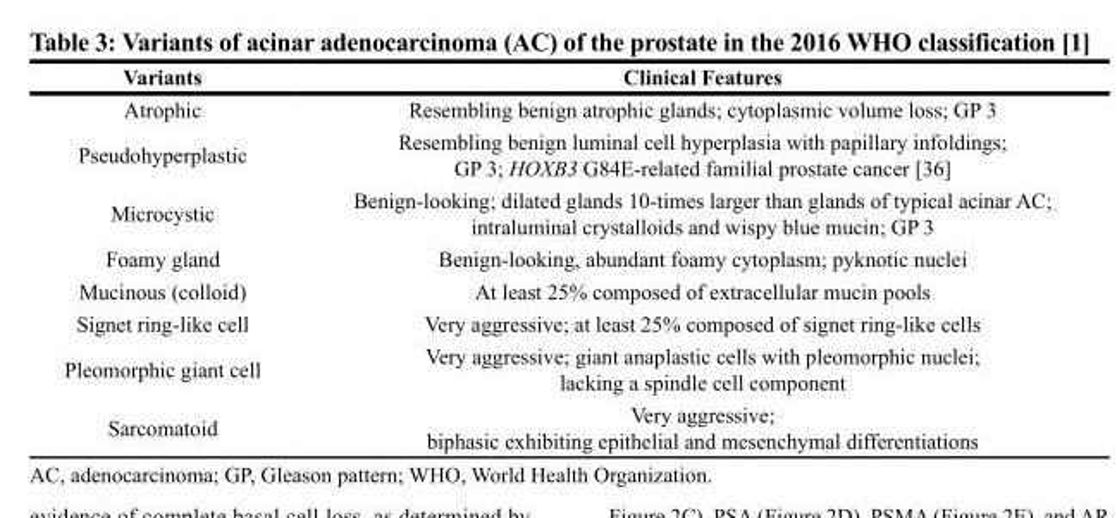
<table><thead><tr><td>Variants</td><td>Clinical Features</td></tr></thead><tbody><tr><td>Atrophic</td><td>Resembling benign atrophic glands; cytoplasmic volume loss; GP 3</td></tr><tr><td>Pseudohyperplastic</td><td>Resembling benign luminal cell hyperplasia with papillary infoldings; GP 3; HOXB3 G84E-related familial prostate cancer [36]</td></tr><tr><td>Microcystic</td><td>Benign-looking; dilated glands 10-times larger than glands of typical acinar AC; intraluminal crystalloids and wispy blue mucin; GP 3</td></tr><tr><td>Foamy gland</td><td>Benign-looking, abundant foamy cytoplasm; pyknotic nuclei</td></tr><tr><td>Mucinous (colloid)</td><td>At least 25% composed of extracellular mucin pools</td></tr><tr><td>Signet ring-like cell</td><td>Very aggressive; at least 25% composed of signet ring-like cells</td></tr><tr><td>Pleomorphic giant cell</td><td>Very aggressive; giant anaplastic cells with pleomorphic nuclei; lacking a spindle cell component</td></tr><tr><td>Sarcomatoid</td><td>Very aggressive; biphasic exhibiting epithelial and mesenchymal differentiations</td></tr></tbody></table>